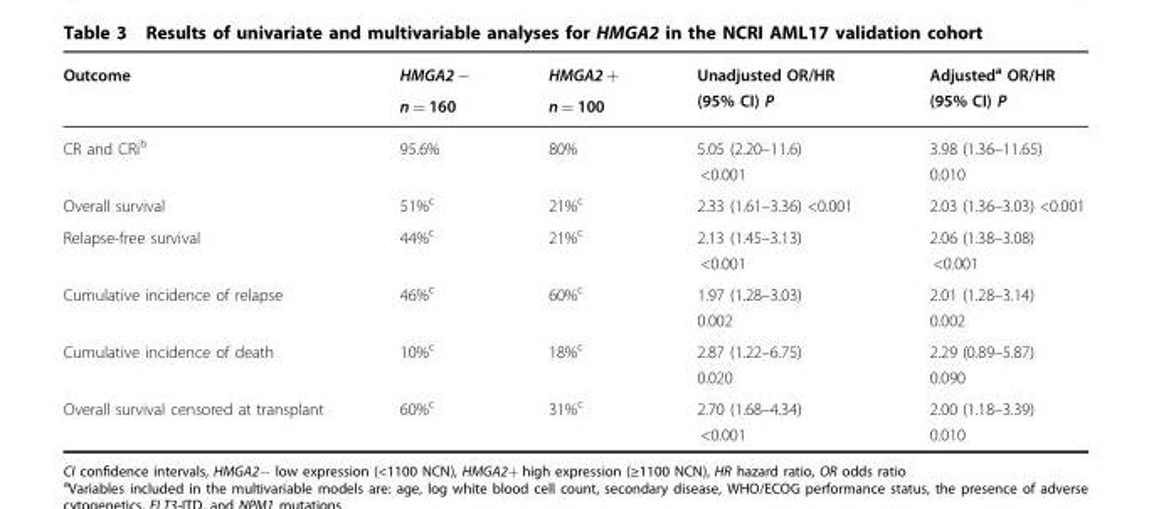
<table><thead><tr><td rowspan="2">Outcome</td><td rowspan="2">HMGA2 − n = 160</td><td rowspan="2">HMGA2 + n = 100</td><td rowspan="2">Unadjusted OR/HR (95% CI) P</td><td rowspan="2">Adjusted<sup>a</sup> OR/HR (95% CI) P</td></tr><tr></tr></thead><tbody><tr><td>CR and CRi<sup>b</sup></td><td>95.6%</td><td>80%</td><td>5.05 (2.20–11.6) &lt;0.001</td><td>3.98 (1.36–11.65) 0.010</td></tr><tr><td>Overall survival</td><td>51%<sup>c</sup></td><td>21%<sup>c</sup></td><td>2.33 (1.61–3.36) &lt;0.001</td><td>2.03 (1.36–3.03) &lt;0.001</td></tr><tr><td>Relapse-free survival</td><td>44%<sup>c</sup></td><td>21%<sup>c</sup></td><td>2.13 (1.45–3.13) &lt;0.001</td><td>2.06 (1.38–3.08) &lt;0.001</td></tr><tr><td>Cumulative incidence of relapse</td><td>46%<sup>c</sup></td><td>60%<sup>c</sup></td><td>1.97 (1.28–3.03) 0.002</td><td>2.01 (1.28–3.14) 0.002</td></tr><tr><td>Cumulative incidence of death</td><td>10%<sup>c</sup></td><td>18%<sup>c</sup></td><td>2.87 (1.22–6.75) 0.020</td><td>2.29 (0.89–5.87) 0.090</td></tr><tr><td>Overall survival censored at transplant</td><td>60%<sup>c</sup></td><td>31%<sup>c</sup></td><td>2.70 (1.68–4.34) &lt;0.001</td><td>2.00 (1.18–3.39) 0.010</td></tr></tbody></table>